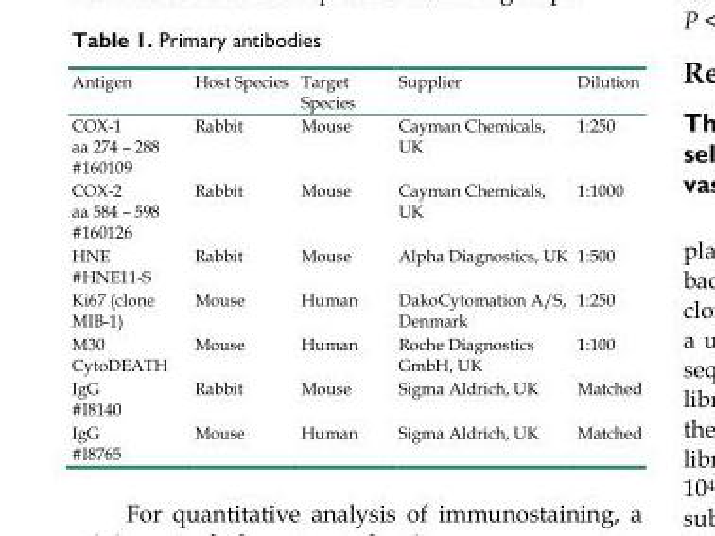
<table><thead><tr><td>Antigen</td><td>Host Species</td><td>Target Species</td><td>Supplier</td><td>Dilution</td></tr></thead><tbody><tr><td>COX-1 aa 274 – 288 #160109</td><td>Rabbit</td><td>Mouse</td><td>Cayman Chemicals, UK</td><td>1:250</td></tr><tr><td>COX-2 aa 584 – 598 #160126</td><td>Rabbit</td><td>Mouse</td><td>Cayman Chemicals, UK</td><td>1:1000</td></tr><tr><td>HNE #HNE11-S</td><td>Rabbit</td><td>Mouse</td><td>Alpha Diagnostics, UK</td><td>1:500</td></tr><tr><td>Ki67 (clone MIB-1)</td><td>Mouse</td><td>Human</td><td>DakoCytomation A/S, Denmark</td><td>1:250</td></tr><tr><td>M30 CytoDEATH</td><td>Mouse</td><td>Human</td><td>Roche Diagnostics GmbH, UK</td><td>1:100</td></tr><tr><td>IgG #I8140</td><td>Rabbit</td><td>Mouse</td><td>Sigma Aldrich, UK</td><td>Matched</td></tr><tr><td>IgG #I8765</td><td>Mouse</td><td>Human</td><td>Sigma Aldrich, UK</td><td>Matched</td></tr></tbody></table>